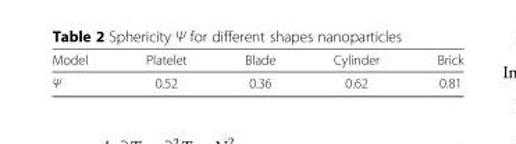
<table><thead><tr><td>Model</td><td>Platelet</td><td>Blade</td><td>Cylinder</td><td>Brick</td></tr></thead><tbody><tr><td>Ψ</td><td>0.52</td><td>0.36</td><td>0.62</td><td>0.81</td></tr></tbody></table>